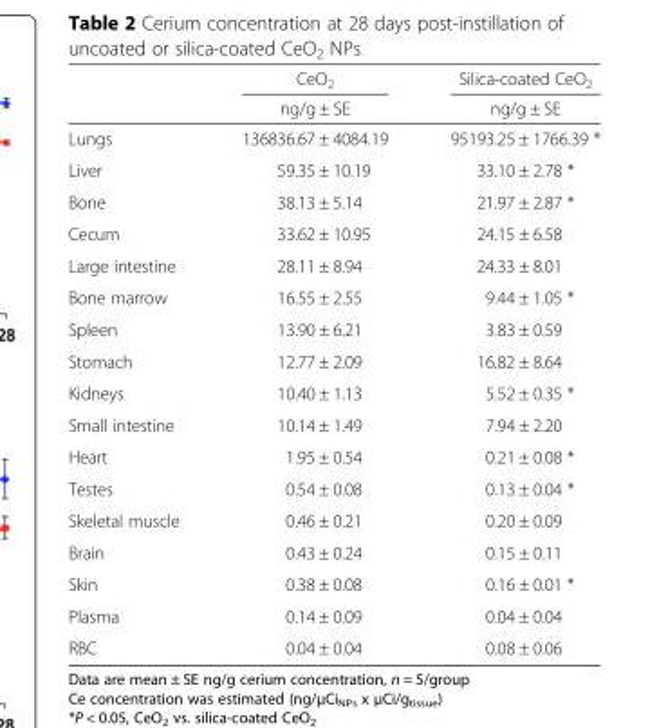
<table><thead><tr><td rowspan="2"></td><td rowspan="2">CeO<sub>2</sub> ng/g ± SE</td><td rowspan="2">Silica-coated CeO<sub>2</sub> ng/g ± SE</td></tr><tr></tr></thead><tbody><tr><td>Lungs</td><td>136836.67 ± 4084.19</td><td>95193.25 ± 1766.39 *</td></tr><tr><td>Liver</td><td>59.35 ± 10.19</td><td>33.10 ± 2.78 *</td></tr><tr><td>Bone</td><td>38.13 ± 5.14</td><td>21.97 ± 2.87 *</td></tr><tr><td>Cecum</td><td>33.62 ± 10.95</td><td>24.15 ± 6.58</td></tr><tr><td>Large intestine</td><td>28.11 ± 8.94</td><td>24.33 ± 8.01</td></tr><tr><td>Bone marrow</td><td>16.55 ± 2.55</td><td>9.44 ± 1.05 *</td></tr><tr><td>Spleen</td><td>13.90 ± 6.21</td><td>3.83 ± 0.59</td></tr><tr><td>Stomach</td><td>12.77 ± 2.09</td><td>16.82 ± 8.64</td></tr><tr><td>Kidneys</td><td>10.40 ± 1.13</td><td>5.52 ± 0.35 *</td></tr><tr><td>Small intestine</td><td>10.14 ± 1.49</td><td>7.94 ± 2.20</td></tr><tr><td>Heart</td><td>1.95 ± 0.54</td><td>0.21 ± 0.08 *</td></tr><tr><td>Testes</td><td>0.54 ± 0.08</td><td>0.13 ± 0.04 *</td></tr><tr><td>Skeletal muscle</td><td>0.46 ± 0.21</td><td>0.20 ± 0.09</td></tr><tr><td>Brain</td><td>0.43 ± 0.24</td><td>0.15 ± 0.11</td></tr><tr><td>Skin</td><td>0.38 ± 0.08</td><td>0.16 ± 0.01 *</td></tr><tr><td>Plasma</td><td>0.14 ± 0.09</td><td>0.04 ± 0.04</td></tr><tr><td>RBC</td><td>0.04 ± 0.04</td><td>0.08 ± 0.06</td></tr></tbody></table>